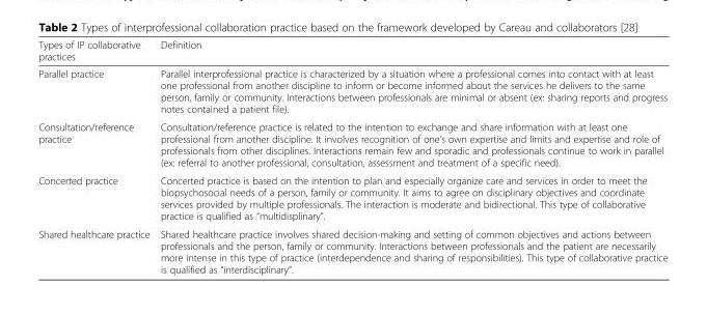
<table><thead><tr><td>Types of IP collaborative practices</td><td>Definition</td></tr></thead><tbody><tr><td>Parallel practice</td><td>Parallel interprofessional practice is characterized by a situation where a professional comes into contact with at least one professional from another discipline to inform or become informed about the services he delivers to the same person, family or community. Interactions between professionals are minimal or absent (ex: sharing reports and progress notes contained a patient file).</td></tr><tr><td>Consultation/reference practice</td><td>Consultation/reference practice is related to the intention to exchange and share information with at least one professional from another discipline. It involves recognition of one’s own expertise and limits and expertise and role of professionals from other disciplines. Interactions remain few and sporadic and professionals continue to work in parallel (ex: referral to another professional, consultation, assessment and treatment of a specific need).</td></tr><tr><td>Concerted practice</td><td>Concerted practice is based on the intention to plan and especially organize care and services in order to meet the biopsychosocial needs of a person, family or community. It aims to agree on disciplinary objectives and coordinate services provided by multiple professionals. The interaction is moderate and bidirectional. This type of collaborative practice is qualified as “multidisplinary”.</td></tr><tr><td>Shared healthcare practice</td><td>Shared healthcare practice involves shared decision-making and setting of common objectives and actions between professionals and the person, family or community. Interactions between professionals and the patient are necessarily more intense in this type of practice (interdependence and sharing of responsibilities). This type of collaborative practice is qualified as “interdisciplinary”.</td></tr></tbody></table>